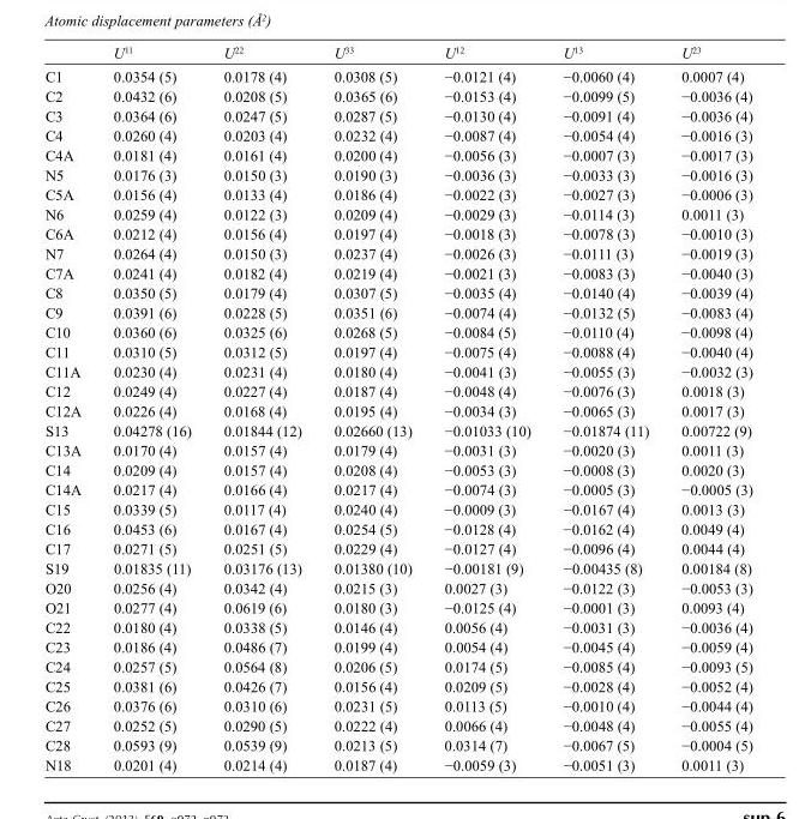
<table><thead><tr><td></td><td>U<sup>11</sup></td><td>U<sup>22</sup></td><td>U<sup>33</sup></td><td>U<sup>12</sup></td><td>U<sup>13</sup></td><td>U<sup>23</sup></td></tr></thead><tbody><tr><td>C1</td><td>0.0354 (5)</td><td>0.0178 (4)</td><td>0.0308 (5)</td><td>−0.0121 (4)</td><td>−0.0060 (4)</td><td>0.0007 (4)</td></tr><tr><td>C2</td><td>0.0432 (6)</td><td>0.0208 (5)</td><td>0.0365 (6)</td><td>−0.0153 (4)</td><td>−0.0099 (5)</td><td>−0.0036 (4)</td></tr><tr><td>C3</td><td>0.0364 (6)</td><td>0.0247 (5)</td><td>0.0287 (5)</td><td>−0.0130 (4)</td><td>−0.0091 (4)</td><td>−0.0036 (4)</td></tr><tr><td>C4</td><td>0.0260 (4)</td><td>0.0203 (4)</td><td>0.0232 (4)</td><td>−0.0087 (4)</td><td>−0.0054 (4)</td><td>−0.0016 (3)</td></tr><tr><td>C4A</td><td>0.0181 (4)</td><td>0.0161 (4)</td><td>0.0200 (4)</td><td>−0.0056 (3)</td><td>−0.0007 (3)</td><td>−0.0017 (3)</td></tr><tr><td>N5</td><td>0.0176 (3)</td><td>0.0150 (3)</td><td>0.0190 (3)</td><td>−0.0036 (3)</td><td>−0.0033 (3)</td><td>−0.0016 (3)</td></tr><tr><td>C5A</td><td>0.0156 (4)</td><td>0.0133 (4)</td><td>0.0186 (4)</td><td>−0.0022 (3)</td><td>−0.0027 (3)</td><td>−0.0006 (3)</td></tr><tr><td>N6</td><td>0.0259 (4)</td><td>0.0122 (3)</td><td>0.0209 (4)</td><td>−0.0029 (3)</td><td>−0.0114 (3)</td><td>0.0011 (3)</td></tr><tr><td>C6A</td><td>0.0212 (4)</td><td>0.0156 (4)</td><td>0.0197 (4)</td><td>−0.0018 (3)</td><td>−0.0078 (3)</td><td>−0.0010 (3)</td></tr><tr><td>N7</td><td>0.0264 (4)</td><td>0.0150 (3)</td><td>0.0237 (4)</td><td>−0.0026 (3)</td><td>−0.0111 (3)</td><td>−0.0019 (3)</td></tr><tr><td>C7A</td><td>0.0241 (4)</td><td>0.0182 (4)</td><td>0.0219 (4)</td><td>−0.0021 (3)</td><td>−0.0083 (3)</td><td>−0.0040 (3)</td></tr><tr><td>C8</td><td>0.0350 (5)</td><td>0.0179 (4)</td><td>0.0307 (5)</td><td>−0.0035 (4)</td><td>−0.0140 (4)</td><td>−0.0039 (4)</td></tr><tr><td>C9</td><td>0.0391 (6)</td><td>0.0228 (5)</td><td>0.0351 (6)</td><td>−0.0074 (4)</td><td>−0.0132 (5)</td><td>−0.0083 (4)</td></tr><tr><td>C10</td><td>0.0360 (6)</td><td>0.0325 (6)</td><td>0.0268 (5)</td><td>−0.0084 (5)</td><td>−0.0110 (4)</td><td>−0.0098 (4)</td></tr><tr><td>C11</td><td>0.0310 (5)</td><td>0.0312 (5)</td><td>0.0197 (4)</td><td>−0.0075 (4)</td><td>−0.0088 (4)</td><td>−0.0040 (4)</td></tr><tr><td>C11A</td><td>0.0230 (4)</td><td>0.0231 (4)</td><td>0.0180 (4)</td><td>−0.0041 (3)</td><td>−0.0055 (3)</td><td>−0.0032 (3)</td></tr><tr><td>C12</td><td>0.0249 (4)</td><td>0.0227 (4)</td><td>0.0187 (4)</td><td>−0.0048 (4)</td><td>−0.0076 (3)</td><td>0.0018 (3)</td></tr><tr><td>C12A</td><td>0.0226 (4)</td><td>0.0168 (4)</td><td>0.0195 (4)</td><td>−0.0034 (3)</td><td>−0.0065 (3)</td><td>0.0017 (3)</td></tr><tr><td>S13</td><td>0.04278 (16)</td><td>0.01844 (12)</td><td>0.02660 (13)</td><td>−0.01033 (10)</td><td>−0.01874 (11)</td><td>0.00722 (9)</td></tr><tr><td>C13A</td><td>0.0170 (4)</td><td>0.0157 (4)</td><td>0.0179 (4)</td><td>−0.0031 (3)</td><td>−0.0020 (3)</td><td>0.0011 (3)</td></tr><tr><td>C14</td><td>0.0209 (4)</td><td>0.0157 (4)</td><td>0.0208 (4)</td><td>−0.0053 (3)</td><td>−0.0008 (3)</td><td>0.0020 (3)</td></tr><tr><td>C14A</td><td>0.0217 (4)</td><td>0.0166 (4)</td><td>0.0217 (4)</td><td>−0.0074 (3)</td><td>−0.0005 (3)</td><td>−0.0005 (3)</td></tr><tr><td>C15</td><td>0.0339 (5)</td><td>0.0117 (4)</td><td>0.0240 (4)</td><td>−0.0009 (3)</td><td>−0.0167 (4)</td><td>0.0013 (3)</td></tr><tr><td>C16</td><td>0.0453 (6)</td><td>0.0167 (4)</td><td>0.0254 (5)</td><td>−0.0128 (4)</td><td>−0.0162 (4)</td><td>0.0049 (4)</td></tr><tr><td>C17</td><td>0.0271 (5)</td><td>0.0251 (5)</td><td>0.0229 (4)</td><td>−0.0127 (4)</td><td>−0.0096 (4)</td><td>0.0044 (4)</td></tr><tr><td>S19</td><td>0.01835 (11)</td><td>0.03176 (13)</td><td>0.01380 (10)</td><td>−0.00181 (9)</td><td>−0.00435 (8)</td><td>0.00184 (8)</td></tr><tr><td>O20</td><td>0.0256 (4)</td><td>0.0342 (4)</td><td>0.0215 (3)</td><td>0.0027 (3)</td><td>−0.0122 (3)</td><td>−0.0053 (3)</td></tr><tr><td>O21</td><td>0.0277 (4)</td><td>0.0619 (6)</td><td>0.0180 (3)</td><td>−0.0125 (4)</td><td>−0.0001 (3)</td><td>0.0093 (4)</td></tr><tr><td>C22</td><td>0.0180 (4)</td><td>0.0338 (5)</td><td>0.0146 (4)</td><td>0.0056 (4)</td><td>−0.0031 (3)</td><td>−0.0036 (4)</td></tr><tr><td>C23</td><td>0.0186 (4)</td><td>0.0486 (7)</td><td>0.0199 (4)</td><td>0.0054 (4)</td><td>−0.0045 (4)</td><td>−0.0059 (4)</td></tr><tr><td>C24</td><td>0.0257 (5)</td><td>0.0564 (8)</td><td>0.0206 (5)</td><td>0.0174 (5)</td><td>−0.0085 (4)</td><td>−0.0093 (5)</td></tr><tr><td>C25</td><td>0.0381 (6)</td><td>0.0426 (7)</td><td>0.0156 (4)</td><td>0.0209 (5)</td><td>−0.0028 (4)</td><td>−0.0052 (4)</td></tr><tr><td>C26</td><td>0.0376 (6)</td><td>0.0310 (6)</td><td>0.0231 (5)</td><td>0.0113 (5)</td><td>−0.0010 (4)</td><td>−0.0044 (4)</td></tr><tr><td>C27</td><td>0.0252 (5)</td><td>0.0290 (5)</td><td>0.0222 (4)</td><td>0.0066 (4)</td><td>−0.0048 (4)</td><td>−0.0055 (4)</td></tr><tr><td>C28</td><td>0.0593 (9)</td><td>0.0539 (9)</td><td>0.0213 (5)</td><td>0.0314 (7)</td><td>−0.0067 (5)</td><td>−0.0004 (5)</td></tr><tr><td>N18</td><td>0.0201 (4)</td><td>0.0214 (4)</td><td>0.0187 (4)</td><td>−0.0059 (3)</td><td>−0.0051 (3)</td><td>0.0011 (3)</td></tr></tbody></table>